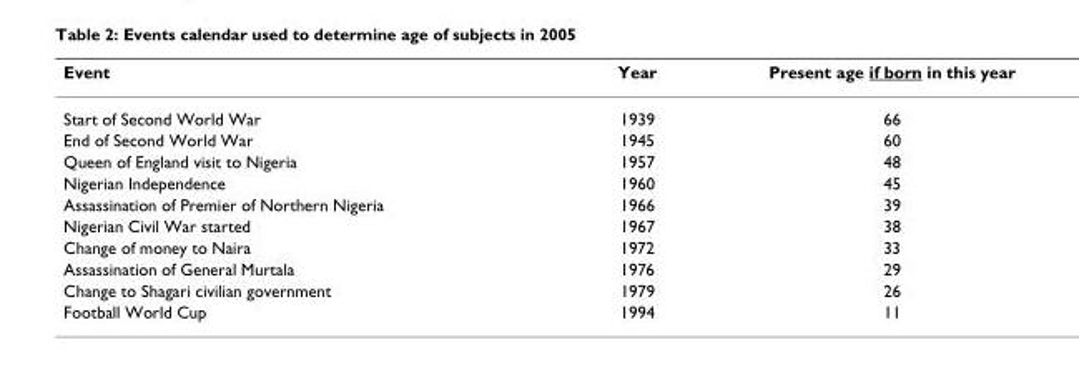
<table><thead><tr><td>Event</td><td>Year</td><td>Present age if born in this year</td></tr></thead><tbody><tr><td>Start of Second World War</td><td>1939</td><td>66</td></tr><tr><td>End of Second World War</td><td>1945</td><td>60</td></tr><tr><td>Queen of England visit to Nigeria</td><td>1957</td><td>48</td></tr><tr><td>Nigerian Independence</td><td>1960</td><td>45</td></tr><tr><td>Assassination of Premier of Northern Nigeria</td><td>1966</td><td>39</td></tr><tr><td>Nigerian Civil War started</td><td>1967</td><td>38</td></tr><tr><td>Change of money to Naira</td><td>1972</td><td>33</td></tr><tr><td>Assassination of General Murtala</td><td>1976</td><td>29</td></tr><tr><td>Change to Shagari civilian government</td><td>1979</td><td>26</td></tr><tr><td>Football World Cup</td><td>1994</td><td>11</td></tr></tbody></table>